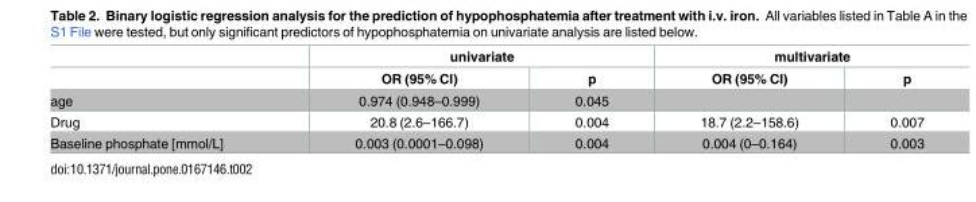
<table><thead><tr><td rowspan="2"></td><td colspan="2">univariate</td><td colspan="2">multivariate</td></tr><tr><td>OR (95% CI)</td><td>p</td><td>OR (95% CI)</td><td>p</td></tr></thead><tbody><tr><td>age</td><td>0.974 (0.948–0.999)</td><td>0.045</td><td></td><td></td></tr><tr><td>Drug</td><td>20.8 (2.6–166.7)</td><td>0.004</td><td>18.7 (2.2–158.6)</td><td>0.007</td></tr><tr><td>Baseline phosphate [mmol/L]</td><td>0.003 (0.0001–0.098)</td><td>0.004</td><td>0.004 (0–0.164)</td><td>0.003</td></tr></tbody></table>